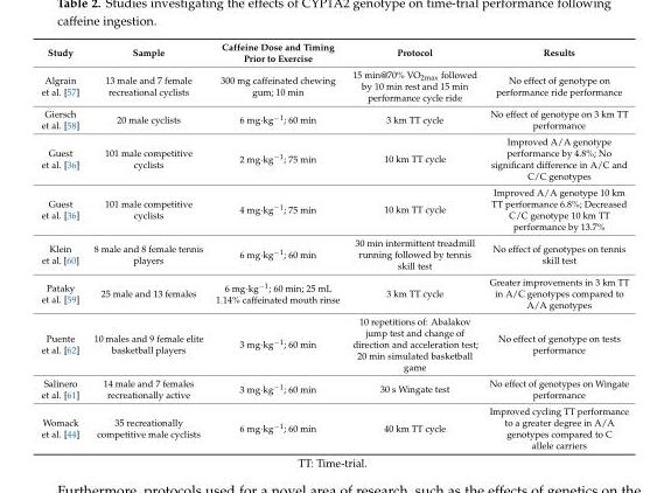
<table><thead><tr><td>Study</td><td>Sample</td><td>Caffeine Dose and Timing Prior to Exercise</td><td>Protocol</td><td>Results</td></tr></thead><tbody><tr><td>Algrain et al. [57]</td><td>13 male and 7 female recreational cyclists</td><td>300 mg caffeinated chewing gum; 10 min</td><td>15 min@70% VO<sub>2max</sub> followed by 10 min rest and 15 min performance cycle ride</td><td>No effect of genotype on performance ride performance</td></tr><tr><td>Giersch et al. [58]</td><td>20 male cyclists</td><td>6 mg·kg<sup>−1</sup>; 60 min</td><td>3 km TT cycle</td><td>No effect of genotype on 3 km TT performance</td></tr><tr><td>Guest et al. [36]</td><td>101 male competitive cyclists</td><td>2 mg·kg<sup>−1</sup>; 75 min</td><td>10 km TT cycle</td><td>Improved A/A genotype performance by 4.8%; No significant difference in A/C and C/C genotypes</td></tr><tr><td>Guest et al. [36]</td><td>101 male competitive cyclists</td><td>4 mg·kg<sup>−1</sup>; 75 min</td><td>10 km TT cycle</td><td>Improved A/A genotype 10 km TT performance 6.8%; Decreased C/C genotype 10 km TT performance by 13.7%</td></tr><tr><td>Klein et al. [60]</td><td>8 male and 8 female tennis players</td><td>6 mg·kg<sup>−1</sup>; 60 min</td><td>30 min intermittent treadmill running followed by tennis skill test</td><td>No effect of genotypes on tennis skill test</td></tr><tr><td>Pataky et al. [59]</td><td>25 male and 13 females</td><td>6 mg·kg<sup>−1</sup>; 60 min; 25 mL 1.14% caffeinated mouth rinse</td><td>3 km TT cycle</td><td>Greater improvements in 3 km TT in A/C genotypes compared to A/A genotypes</td></tr><tr><td>Puente et al. [62]</td><td>10 males and 9 female elite basketball players</td><td>3 mg·kg<sup>−1</sup>; 60 min</td><td>10 repetitions of: Abalakov jump test and change of direction and acceleration test; 20 min simulated basketball game</td><td>No effect of genotype on tests performance</td></tr><tr><td>Salinero et al. [61]</td><td>14 male and 7 females recreationally active</td><td>3 mg·kg<sup>−1</sup>; 60 min</td><td>30 s Wingate test</td><td>No effect of genotypes on Wingate performance</td></tr><tr><td>Womack et al. [44]</td><td>35 recreationally competitive male cyclists</td><td>6 mg·kg<sup>−1</sup>; 60 min</td><td>40 km TT cycle</td><td>Improved cycling TT performance to a greater degree in A/A genotypes compared to C allele carriers</td></tr></tbody></table>